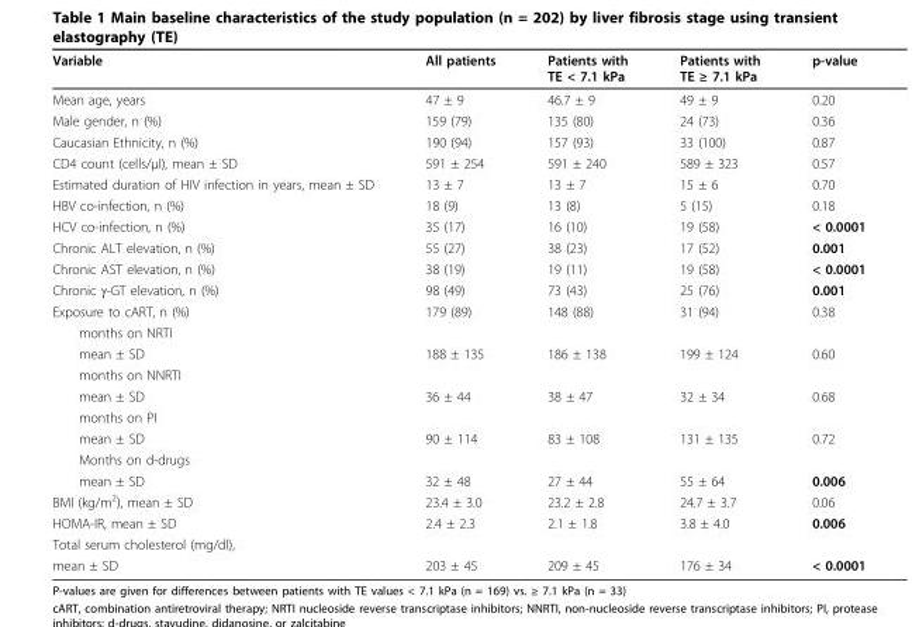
<table><thead><tr><td>Variable</td><td>All patients</td><td>Patients with TE &lt; 7.1 kPa</td><td>Patients with TE ≥ 7.1 kPa</td><td>p-value</td></tr></thead><tbody><tr><td>Mean age, years</td><td>47 ± 9</td><td>46.7 ± 9</td><td>49 ± 9</td><td>0.20</td></tr><tr><td>Male gender, n (%)</td><td>159 (79)</td><td>135 (80)</td><td>24 (73)</td><td>0.36</td></tr><tr><td>Caucasian Ethnicity, n (%)</td><td>190 (94)</td><td>157 (93)</td><td>33 (100)</td><td>0.87</td></tr><tr><td>CD4 count (cells/μl), mean ± SD</td><td>591 ± 254</td><td>591 ± 240</td><td>589 ± 323</td><td>0.57</td></tr><tr><td>Estimated duration of HIV infection in years, mean ± SD</td><td>13 ± 7</td><td>13 ± 7</td><td>15 ± 6</td><td>0.70</td></tr><tr><td>HBV co-infection, n (%)</td><td>18 (9)</td><td>13 (8)</td><td>5 (15)</td><td>0.18</td></tr><tr><td>HCV co-infection, n (%)</td><td>35 (17)</td><td>16 (10)</td><td>19 (58)</td><td>&lt; 0.0001</td></tr><tr><td>Chronic ALT elevation, n (%)</td><td>55 (27)</td><td>38 (23)</td><td>17 (52)</td><td>0.001</td></tr><tr><td>Chronic AST elevation, n (%)</td><td>38 (19)</td><td>19 (11)</td><td>19 (58)</td><td>&lt; 0.0001</td></tr><tr><td>Chronic γ-GT elevation, n (%)</td><td>98 (49)</td><td>73 (43)</td><td>25 (76)</td><td>0.001</td></tr><tr><td>Exposure to cART, n (%)</td><td>179 (89)</td><td>148 (88)</td><td>31 (94)</td><td>0.38</td></tr><tr><td colspan="5">months on NRTI</td></tr><tr><td>mean ± SD</td><td>188 ± 135</td><td>186 ± 138</td><td>199 ± 124</td><td>0.60</td></tr><tr><td colspan="5">months on NNRTI</td></tr><tr><td>mean ± SD</td><td>36 ± 44</td><td>38 ± 47</td><td>32 ± 34</td><td>0.68</td></tr><tr><td colspan="5">months on PI</td></tr><tr><td>mean ± SD</td><td>90 ± 114</td><td>83 ± 108</td><td>131 ± 135</td><td>0.72</td></tr><tr><td colspan="5">Months on d-drugs</td></tr><tr><td>mean ± SD</td><td>32 ± 48</td><td>27 ± 44</td><td>55 ± 64</td><td>0.006</td></tr><tr><td>BMI (kg/m<sup>2</sup>), mean ± SD</td><td>23.4 ± 3.0</td><td>23.2 ± 2.8</td><td>24.7 ± 3.7</td><td>0.06</td></tr><tr><td>HOMA-IR, mean ± SD</td><td>2.4 ± 2.3</td><td>2.1 ± 1.8</td><td>3.8 ± 4.0</td><td>0.006</td></tr><tr><td colspan="5">Total serum cholesterol (mg/dl),</td></tr><tr><td>mean ± SD</td><td>203 ± 45</td><td>209 ± 45</td><td>176 ± 34</td><td>&lt; 0.0001</td></tr></tbody></table>